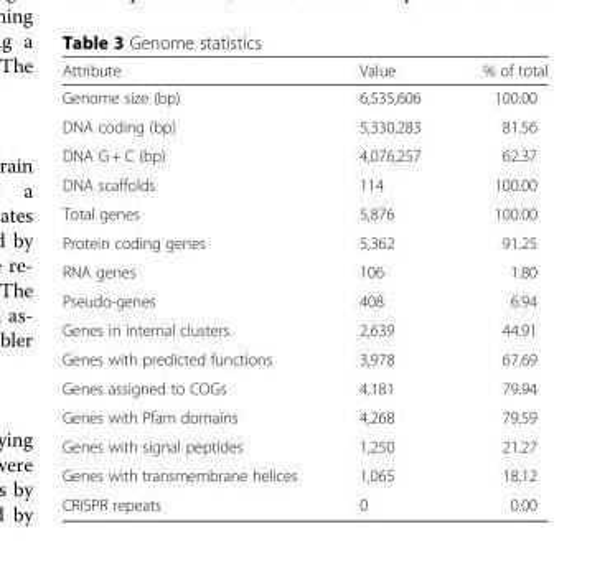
<table><thead><tr><td>Attribute</td><td>Value</td><td>% of total</td></tr></thead><tbody><tr><td>Genome size (bp)</td><td>6,535,606</td><td>100.00</td></tr><tr><td>DNA coding (bp)</td><td>5,330,283</td><td>81.56</td></tr><tr><td>DNA G + C (bp)</td><td>4,076,257</td><td>62.37</td></tr><tr><td>DNA scaffolds</td><td>114</td><td>100.00</td></tr><tr><td>Total genes</td><td>5,876</td><td>100.00</td></tr><tr><td>Protein coding genes</td><td>5,362</td><td>91.25</td></tr><tr><td>RNA genes</td><td>106</td><td>1.80</td></tr><tr><td>Pseudo-genes</td><td>408</td><td>6.94</td></tr><tr><td>Genes in internal clusters</td><td>2,639</td><td>44.91</td></tr><tr><td>Genes with predicted functions</td><td>3,978</td><td>67.69</td></tr><tr><td>Genes assigned to COGs</td><td>4,181</td><td>79.94</td></tr><tr><td>Genes with Pfam domains</td><td>4,268</td><td>79.59</td></tr><tr><td>Genes with signal peptides</td><td>1,250</td><td>21.27</td></tr><tr><td>Genes with transmembrane helices</td><td>1,065</td><td>18.12</td></tr><tr><td>CRISPR repeats</td><td>0</td><td>0.00</td></tr></tbody></table>